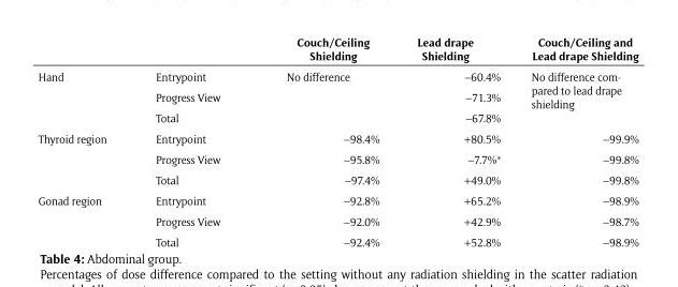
<table><thead><tr><td></td><td></td><td>Couch/Ceiling Shielding</td><td>Lead drape Shielding</td><td>Couch/Ceiling and Lead drape Shielding</td></tr></thead><tbody><tr><td rowspan="3">Hand</td><td>Entrypoint</td><td rowspan="3">No difference</td><td>–60.4%</td><td rowspan="3">No difference com- pared to lead drape shielding</td></tr><tr><td>Progress View</td><td>–71.3%</td></tr><tr><td>Total</td><td>–67.8%</td></tr><tr><td rowspan="3">Thyroid region</td><td>Entrypoint</td><td>–98.4%</td><td>+80.5%</td><td>–99.9%</td></tr><tr><td>Progress View</td><td>–95.8%</td><td>–7.7%*</td><td>–99.8%</td></tr><tr><td>Total</td><td>–97.4%</td><td>+49.0%</td><td>–99.8%</td></tr><tr><td rowspan="3">Gonad region</td><td>Entrypoint</td><td>–92.8%</td><td>+65.2%</td><td>–98.9%</td></tr><tr><td>Progress View</td><td>–92.0%</td><td>+42.9%</td><td>–98.7%</td></tr><tr><td>Total</td><td>–92.4%</td><td>+52.8%</td><td>–98.9%</td></tr></tbody></table>